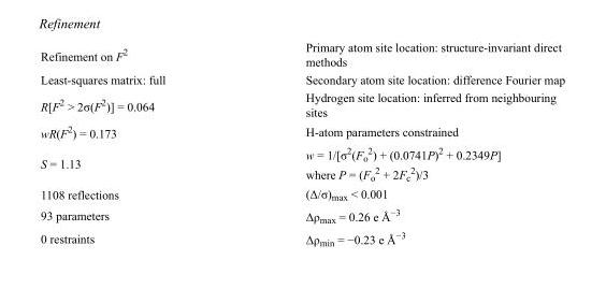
<table><tbody><tr><td>Refinement on F<sup>2</sup></td><td>Primary atom site location: structure-invariant direct methods</td></tr><tr><td>Least-squares matrix: full</td><td>Secondary atom site location: difference Fourier map</td></tr><tr><td>R[F<sup>2</sup> &gt; 2σ(F<sup>2</sup>)] = 0.064</td><td>Hydrogen site location: inferred from neighbouring sites</td></tr><tr><td>wR(F<sup>2</sup>) = 0.173</td><td>H-atom parameters constrained</td></tr><tr><td>S = 1.13</td><td>w = 1/[σ<sup>2</sup>(F<sub>o</sub> <sup>2</sup>) + (0.0741P)<sup>2</sup> + 0.2349P] where P = (F<sub>o</sub> <sup>2</sup> + 2F<sub>c</sub> <sup>2</sup>)/3</td></tr><tr><td>1108 reflections</td><td>(Δ/σ)<sub>max</sub> &lt; 0.001</td></tr><tr><td>93 parameters</td><td>Δρ<sub>max</sub> = 0.26 e Å<sup>−3</sup></td></tr><tr><td>0 restraints</td><td>Δρ<sub>min</sub> = −0.23 e Å<sup>−3</sup></td></tr></tbody></table>